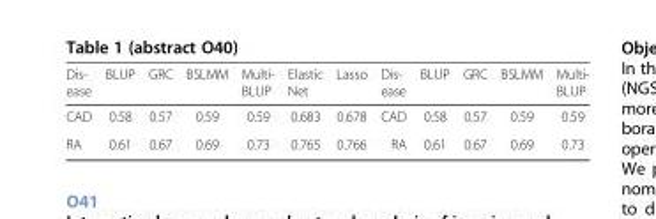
<table><thead><tr><td>Dis- ease</td><td>BLUP</td><td>GRC</td><td>BSLMM</td><td>Multi- BLUP</td><td>Elastic Net</td><td>Lasso</td><td>Dis- ease</td><td>BLUP</td><td>GRC</td><td>BSLMM</td><td>Multi- BLUP</td></tr></thead><tbody><tr><td>CAD</td><td>0.58</td><td>0.57</td><td>0.59</td><td>0.59</td><td>0.683</td><td>0.678</td><td>CAD</td><td>0.58</td><td>0.57</td><td>0.59</td><td>0.59</td></tr><tr><td>RA</td><td>0.61</td><td>0.67</td><td>0.69</td><td>0.73</td><td>0.765</td><td>0.766</td><td>RA</td><td>0.61</td><td>0.67</td><td>0.69</td><td>0.73</td></tr></tbody></table>